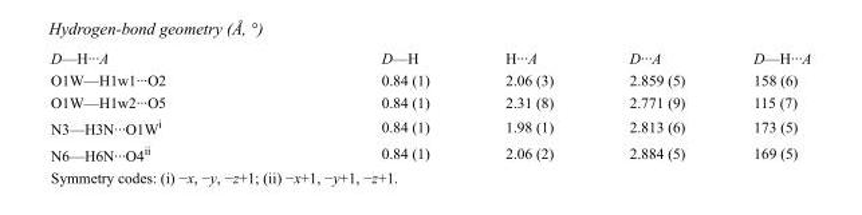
<table><tbody><tr><td>D—H···A</td><td>D—H</td><td>H···A</td><td>D···A</td><td>D—H···A</td></tr><tr><td>O1W—H1w1···O2</td><td>0.84 (1)</td><td>2.06 (3)</td><td>2.859 (5)</td><td>158 (6)</td></tr><tr><td>O1W—H1w2···O5</td><td>0.84 (1)</td><td>2.31 (8)</td><td>2.771 (9)</td><td>115 (7)</td></tr><tr><td>N3—H3N···O1W<sup>i</sup></td><td>0.84 (1)</td><td>1.98 (1)</td><td>2.813 (6)</td><td>173 (5)</td></tr><tr><td>N6—H6N···O4<sup>ii</sup></td><td>0.84 (1)</td><td>2.06 (2)</td><td>2.884 (5)</td><td>169 (5)</td></tr></tbody></table>